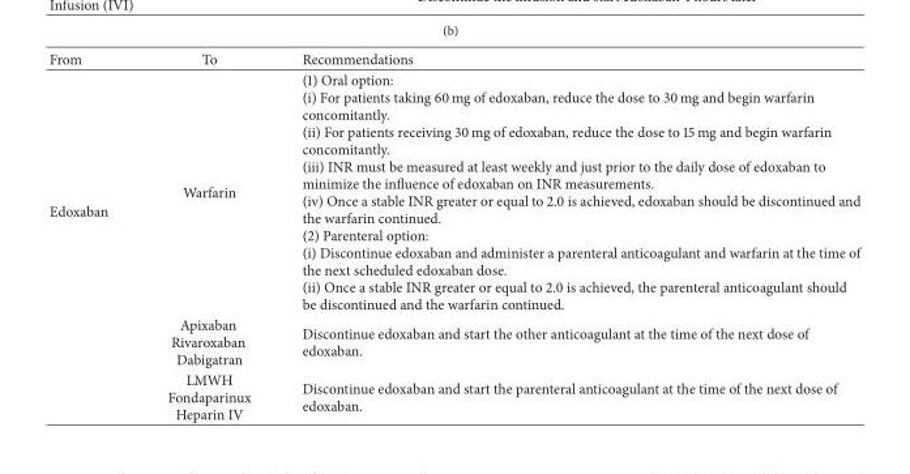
<table><thead><tr><td>From</td><td>To</td><td>Recommendations</td></tr></thead><tbody><tr><td rowspan="3">Edoxaban</td><td>Warfarin</td><td>(1) Oral option: (i) For patients taking 60 mg of edoxaban, reduce the dose to 30 mg and begin warfarin concomitantly. (ii) For patients receiving 30 mg of edoxaban, reduce the dose to 15 mg and begin warfarin concomitantly. (iii) INR must be measured at least weekly and just prior to the daily dose of edoxaban to minimize the influence of edoxaban on INR measurements. (iv) Once a stable INR greater or equal to 2.0 is achieved, edoxaban should be discontinued and the warfarin continued. (2) Parenteral option: (i) Discontinue edoxaban and administer a parenteral anticoagulant and warfarin at the time of the next scheduled edoxaban dose. (ii) Once a stable INR greater or equal to 2.0 is achieved, the parenteral anticoagulant should be discontinued and the warfarin continued.</td></tr><tr><td>Apixaban Rivaroxaban Dabigatran</td><td>Discontinue edoxaban and start the other anticoagulant at the time of the next dose of edoxaban.</td></tr><tr><td>LMWH Fondaparinux Heparin IV</td><td>Discontinue edoxaban and start the parenteral anticoagulant at the time of the next dose of edoxaban.</td></tr></tbody></table>